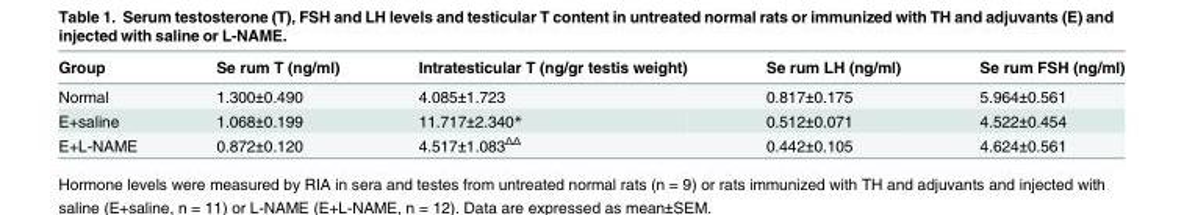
<table><thead><tr><td>Group</td><td>Se rum T (ng/ml)</td><td>Intratesticular T (ng/gr testis weight)</td><td>Se rum LH (ng/ml)</td><td>Se rum FSH (ng/ml)</td></tr></thead><tbody><tr><td>Normal</td><td>1.300±0.490</td><td>4.085±1.723</td><td>0.817±0.175</td><td>5.964±0.561</td></tr><tr><td>E+saline</td><td>1.068±0.199</td><td>11.717±2.340*</td><td>0.512±0.071</td><td>4.522±0.454</td></tr><tr><td>E+L-NAME</td><td>0.872±0.120</td><td>4.517±1.083<sup>ΔΔ</sup></td><td>0.442±0.105</td><td>4.624±0.561</td></tr></tbody></table>